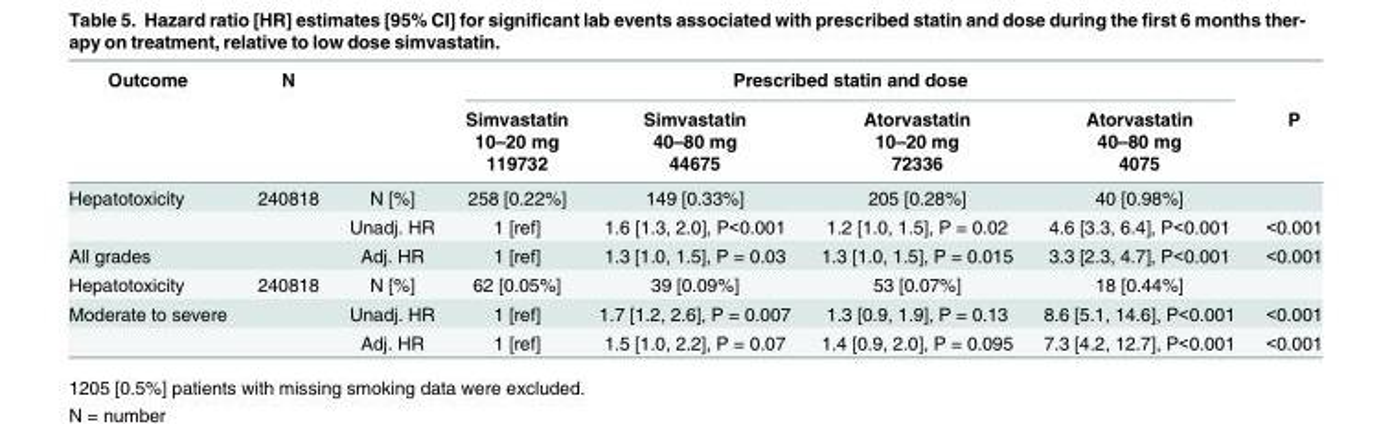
<table><thead><tr><td rowspan="4">Outcome</td><td rowspan="4">N</td><td rowspan="4"></td><td colspan="4">Prescribed statin and dose</td><td rowspan="4">P</td></tr><tr><td rowspan="3">Simvastatin 10–20 mg 119732</td><td rowspan="3">Simvastatin 40–80 mg 44675</td><td rowspan="3">Atorvastatin 10–20 mg 72336</td><td rowspan="3">Atorvastatin 40–80 mg 4075</td></tr><tr></tr><tr></tr></thead><tbody><tr><td rowspan="2">Hepatotoxicity</td><td>240818</td><td>N [%]</td><td>258 [0.22%]</td><td>149 [0.33%]</td><td>205 [0.28%]</td><td>40 [0.98%]</td><td></td></tr><tr><td></td><td>Unadj. HR</td><td>1 [ref]</td><td>1.6 [1.3, 2.0], P&lt;0.001</td><td>1.2 [1.0, 1.5], P = 0.02</td><td>4.6 [3.3, 6.4], P&lt;0.001</td><td>&lt;0.001</td></tr><tr><td>All grades</td><td></td><td>Adj. HR</td><td>1 [ref]</td><td>1.3 [1.0, 1.5], P = 0.03</td><td>1.3 [1.0, 1.5], P = 0.015</td><td>3.3 [2.3, 4.7], P&lt;0.001</td><td>&lt;0.001</td></tr><tr><td>Hepatotoxicity</td><td>240818</td><td>N [%]</td><td>62 [0.05%]</td><td>39 [0.09%]</td><td>53 [0.07%]</td><td>18 [0.44%]</td><td></td></tr><tr><td rowspan="2">Moderate to severe</td><td></td><td>Unadj. HR</td><td>1 [ref]</td><td>1.7 [1.2, 2.6], P = 0.007</td><td>1.3 [0.9, 1.9], P = 0.13</td><td>8.6 [5.1, 14.6], P&lt;0.001</td><td>&lt;0.001</td></tr><tr><td></td><td>Adj. HR</td><td>1 [ref]</td><td>1.5 [1.0, 2.2], P = 0.07</td><td>1.4 [0.9, 2.0], P = 0.095</td><td>7.3 [4.2, 12.7], P&lt;0.001</td><td>&lt;0.001</td></tr></tbody></table>